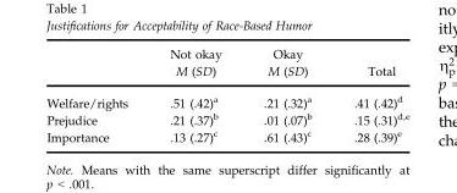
<table><thead><tr><td></td><td>Not okay M (SD)</td><td>Okay M (SD)</td><td>Total</td></tr></thead><tbody><tr><td>Welfare/rights</td><td>.51 (.42)<sup>a</sup></td><td>.21 (.32)<sup>a</sup></td><td>.41 (.42)<sup>d</sup></td></tr><tr><td>Prejudice</td><td>.21 (.37)<sup>b</sup></td><td>.01 (.07)<sup>b</sup></td><td>.15 (.31)<sup>d,e</sup></td></tr><tr><td>Importance</td><td>.13 (.27)<sup>c</sup></td><td>.61 (.43)<sup>c</sup></td><td>.28 (.39)<sup>e</sup></td></tr></tbody></table>